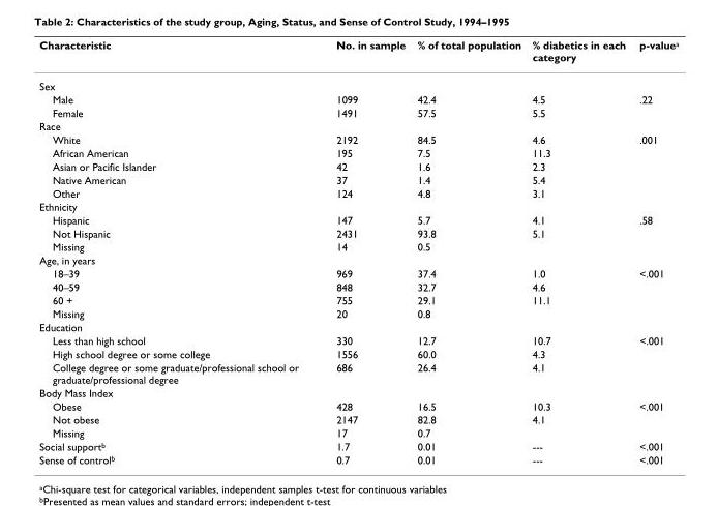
<table><thead><tr><td>Characteristic</td><td>No. in sample</td><td>% of total population</td><td>% diabetics in each category</td><td>p-value<sup>a</sup></td></tr></thead><tbody><tr><td colspan="5">Sex</td></tr><tr><td>Male</td><td>1099</td><td>42.4</td><td>4.5</td><td>.22</td></tr><tr><td>Female</td><td>1491</td><td>57.5</td><td>5.5</td><td></td></tr><tr><td colspan="5">Race</td></tr><tr><td>White</td><td>2192</td><td>84.5</td><td>4.6</td><td>.001</td></tr><tr><td>African American</td><td>195</td><td>7.5</td><td>11.3</td><td></td></tr><tr><td>Asian or Pacific Islander</td><td>42</td><td>1.6</td><td>2.3</td><td></td></tr><tr><td>Native American</td><td>37</td><td>1.4</td><td>5.4</td><td></td></tr><tr><td>Other</td><td>124</td><td>4.8</td><td>3.1</td><td></td></tr><tr><td colspan="5">Ethnicity</td></tr><tr><td>Hispanic</td><td>147</td><td>5.7</td><td>4.1</td><td>.58</td></tr><tr><td>Not Hispanic</td><td>2431</td><td>93.8</td><td>5.1</td><td></td></tr><tr><td>Missing</td><td>14</td><td>0.5</td><td></td><td></td></tr><tr><td colspan="5">Age, in years</td></tr><tr><td>18–39</td><td>969</td><td>37.4</td><td>1.0</td><td>&lt;.001</td></tr><tr><td>40–59</td><td>848</td><td>32.7</td><td>4.6</td><td></td></tr><tr><td>60 +</td><td>755</td><td>29.1</td><td>11.1</td><td></td></tr><tr><td>Missing</td><td>20</td><td>0.8</td><td></td><td></td></tr><tr><td colspan="5">Education</td></tr><tr><td>Less than high school</td><td>330</td><td>12.7</td><td>10.7</td><td>&lt;.001</td></tr><tr><td>High school degree or some college</td><td>1556</td><td>60.0</td><td>4.3</td><td></td></tr><tr><td>College degree or some graduate/professional school or graduate/professional degree</td><td>686</td><td>26.4</td><td>4.1</td><td></td></tr><tr><td colspan="5">Body Mass Index</td></tr><tr><td>Obese</td><td>428</td><td>16.5</td><td>10.3</td><td>&lt;.001</td></tr><tr><td>Not obese</td><td>2147</td><td>82.8</td><td>4.1</td><td></td></tr><tr><td>Missing</td><td>17</td><td>0.7</td><td></td><td></td></tr><tr><td>Social support<sup>b</sup></td><td>1.7</td><td>0.01</td><td>---</td><td>&lt;.001</td></tr><tr><td>Sense of control<sup>b</sup></td><td>0.7</td><td>0.01</td><td>---</td><td>&lt;.001</td></tr></tbody></table>